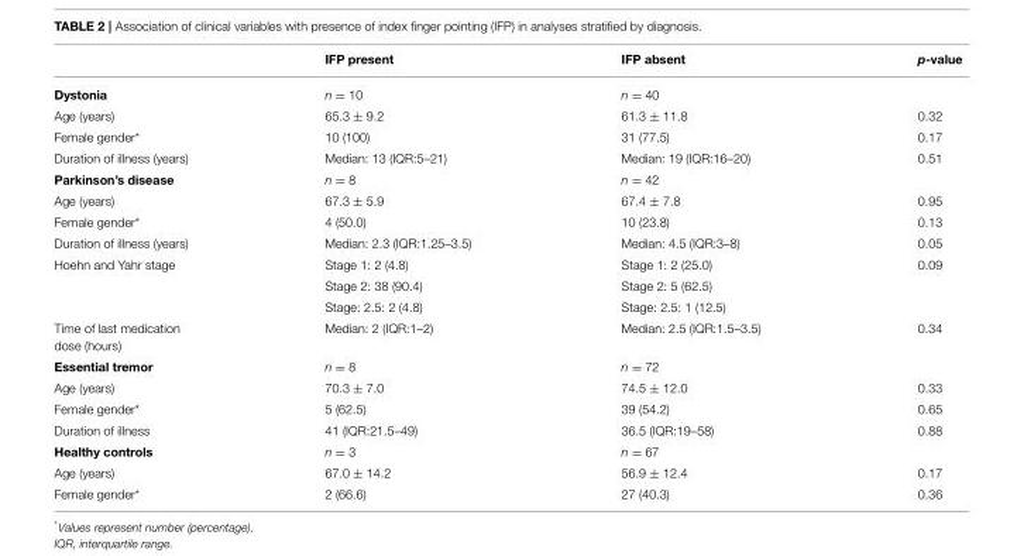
<table><thead><tr><td></td><td>IFP present</td><td>IFP absent</td><td>p-value</td></tr></thead><tbody><tr><td>Dystonia</td><td>n = 10</td><td>n = 40</td><td></td></tr><tr><td>Age (years)</td><td>65.3 ± 9.2</td><td>61.3 ± 11.8</td><td>0.32</td></tr><tr><td>Female gender*</td><td>10 (100)</td><td>31 (77.5)</td><td>0.17</td></tr><tr><td>Duration of illness (years)</td><td>Median: 13 (IQR:5–21)</td><td>Median: 19 (IQR:16–20)</td><td>0.51</td></tr><tr><td>Parkinson’s disease</td><td>n = 8</td><td>n = 42</td><td></td></tr><tr><td>Age (years)</td><td>67.3 ± 5.9</td><td>67.4 ± 7.8</td><td>0.95</td></tr><tr><td>Female gender*</td><td>4 (50.0)</td><td>10 (23.8)</td><td>0.13</td></tr><tr><td>Duration of illness (years)</td><td>Median: 2.3 (IQR:1.25–3.5)</td><td>Median: 4.5 (IQR:3–8)</td><td>0.05</td></tr><tr><td rowspan="3">Hoehn and Yahr stage</td><td>Stage 1: 2 (4.8)</td><td>Stage 1: 2 (25.0)</td><td>0.09</td></tr><tr><td>Stage 2: 38 (90.4)</td><td>Stage 2: 5 (62.5)</td><td></td></tr><tr><td>Stage: 2.5: 2 (4.8)</td><td>Stage: 2.5: 1 (12.5)</td><td></td></tr><tr><td>Time of last medication dose (hours)</td><td>Median: 2 (IQR:1–2)</td><td>Median: 2.5 (IQR:1.5–3.5)</td><td>0.34</td></tr><tr><td>Essential tremor</td><td>n = 8</td><td>n = 72</td><td></td></tr><tr><td>Age (years)</td><td>70.3 ± 7.0</td><td>74.5 ± 12.0</td><td>0.33</td></tr><tr><td>Female gender*</td><td>5 (62.5)</td><td>39 (54.2)</td><td>0.65</td></tr><tr><td>Duration of illness</td><td>41 (IQR:21.5–49)</td><td>36.5 (IQR:19–58)</td><td>0.88</td></tr><tr><td>Healthy controls</td><td>n = 3</td><td>n = 67</td><td></td></tr><tr><td>Age (years)</td><td>67.0 ± 14.2</td><td>56.9 ± 12.4</td><td>0.17</td></tr><tr><td>Female gender*</td><td>2 (66.6)</td><td>27 (40.3)</td><td>0.36</td></tr></tbody></table>